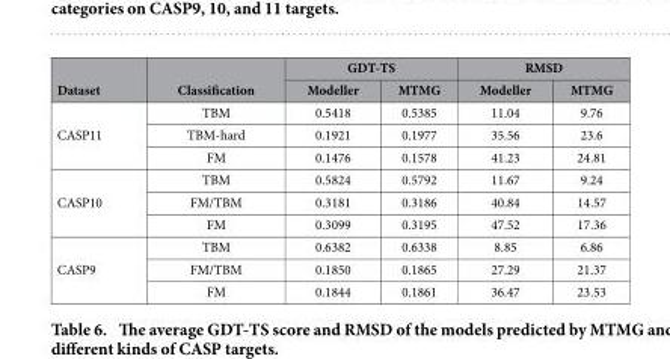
<table><thead><tr><td rowspan="2">Dataset</td><td rowspan="2">Classification</td><td colspan="2">GDT-TS</td><td colspan="2">RMSD</td></tr><tr><td>Modeller</td><td>MTMG</td><td>Modeller</td><td>MTMG</td></tr></thead><tbody><tr><td rowspan="3">CASP11</td><td>TBM</td><td>0.5418</td><td>0.5385</td><td>11.04</td><td>9.76</td></tr><tr><td>TBM-hard</td><td>0.1921</td><td>0.1977</td><td>35.56</td><td>23.6</td></tr><tr><td>FM</td><td>0.1476</td><td>0.1578</td><td>41.23</td><td>24.81</td></tr><tr><td rowspan="3">CASP10</td><td>TBM</td><td>0.5824</td><td>0.5792</td><td>11.67</td><td>9.24</td></tr><tr><td>FM/TBM</td><td>0.3181</td><td>0.3186</td><td>40.84</td><td>14.57</td></tr><tr><td>FM</td><td>0.3099</td><td>0.3195</td><td>47.52</td><td>17.36</td></tr><tr><td rowspan="3">CASP9</td><td>TBM</td><td>0.6382</td><td>0.6338</td><td>8.85</td><td>6.86</td></tr><tr><td>FM/TBM</td><td>0.1850</td><td>0.1865</td><td>27.29</td><td>21.37</td></tr><tr><td>FM</td><td>0.1844</td><td>0.1861</td><td>36.47</td><td>23.53</td></tr></tbody></table>